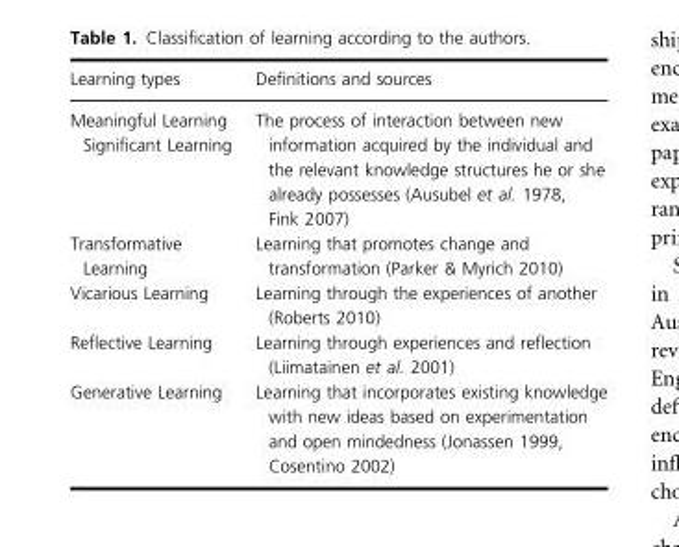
<table><thead><tr><td>Learning types</td><td>Definitions and sources</td></tr></thead><tbody><tr><td>Meaningful Learning Significant Learning</td><td>The process of interaction between new information acquired by the individual and the relevant knowledge structures he or she already possesses (Ausubel et al. 1978, Fink 2007)</td></tr><tr><td>Transformative Learning</td><td>Learning that promotes change and transformation (Parker &amp; Myrich 2010)</td></tr><tr><td>Vicarious Learning</td><td>Learning through the experiences of another (Roberts 2010)</td></tr><tr><td>Reflective Learning</td><td>Learning through experiences and reflection (Liimatainen et al. 2001)</td></tr><tr><td>Generative Learning</td><td>Learning that incorporates existing knowledge with new ideas based on experimentation and open mindedness (Jonassen 1999, Cosentino 2002)</td></tr></tbody></table>